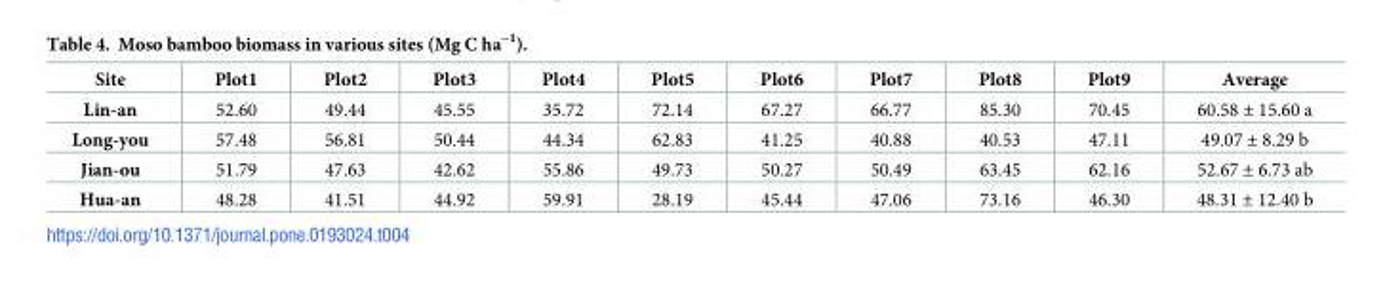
<table><thead><tr><td>Site</td><td>Plot1</td><td>Plot2</td><td>Plot3</td><td>Plot4</td><td>Plot5</td><td>Plot6</td><td>Plot7</td><td>Plot8</td><td>Plot9</td><td>Average</td></tr></thead><tbody><tr><td>Lin-an</td><td>52.60</td><td>49.44</td><td>45.55</td><td>35.72</td><td>72.14</td><td>67.27</td><td>66.77</td><td>85.30</td><td>70.45</td><td>60.58 ± 15.60 a</td></tr><tr><td>Long-you</td><td>57.48</td><td>56.81</td><td>50.44</td><td>44.34</td><td>62.83</td><td>41.25</td><td>40.88</td><td>40.53</td><td>47.11</td><td>49.07 ± 8.29 b</td></tr><tr><td>Jian-ou</td><td>51.79</td><td>47.63</td><td>42.62</td><td>55.86</td><td>49.73</td><td>50.27</td><td>50.49</td><td>63.45</td><td>62.16</td><td>52.67 ± 6.73 ab</td></tr><tr><td>Hua-an</td><td>48.28</td><td>41.51</td><td>44.92</td><td>59.91</td><td>28.19</td><td>45.44</td><td>47.06</td><td>73.16</td><td>46.30</td><td>48.31 ± 12.40 b</td></tr></tbody></table>